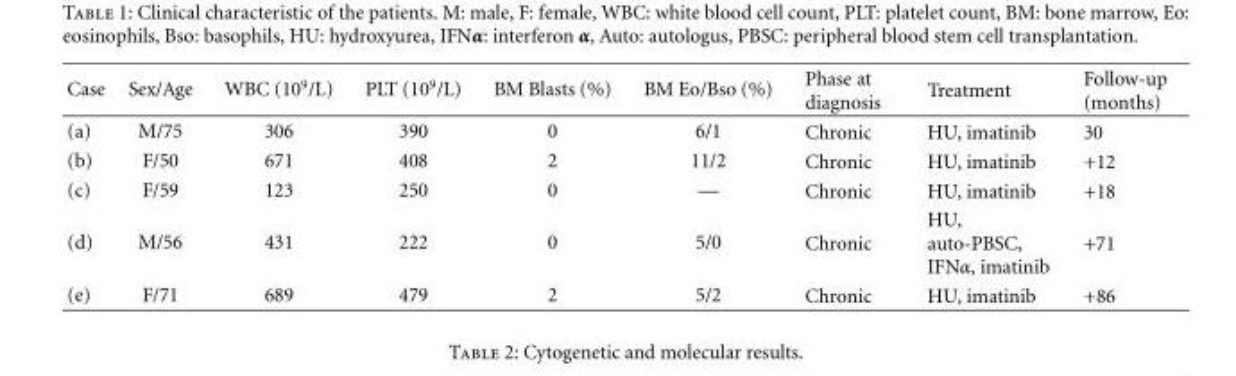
<table><thead><tr><td>Case</td><td>Sex/Age</td><td>WBC (10<sup>9</sup>/L)</td><td>PLT (10<sup>9</sup>/L)</td><td>BM Blasts (%)</td><td>BM Eo/Bso (%)</td><td>Phase at diagnosis</td><td>Treatment</td><td>Follow-up (months)</td></tr></thead><tbody><tr><td>(a)</td><td>M/75</td><td>306</td><td>390</td><td>0</td><td>6/1</td><td>Chronic</td><td>HU, imatinib</td><td>30</td></tr><tr><td>(b)</td><td>F/50</td><td>671</td><td>408</td><td>2</td><td>11/2</td><td>Chronic</td><td>HU, imatinib</td><td>+12</td></tr><tr><td>(c)</td><td>F/59</td><td>123</td><td>250</td><td>0</td><td>—</td><td>Chronic</td><td>HU, imatinib</td><td>+18</td></tr><tr><td>(d)</td><td>M/56</td><td>431</td><td>222</td><td>0</td><td>5/0</td><td>Chronic</td><td>HU, auto-PBSC, IFNα, imatinib</td><td>+71</td></tr><tr><td>(e)</td><td>F/71</td><td>689</td><td>479</td><td>2</td><td>5/2</td><td>Chronic</td><td>HU, imatinib</td><td>+86</td></tr></tbody></table>